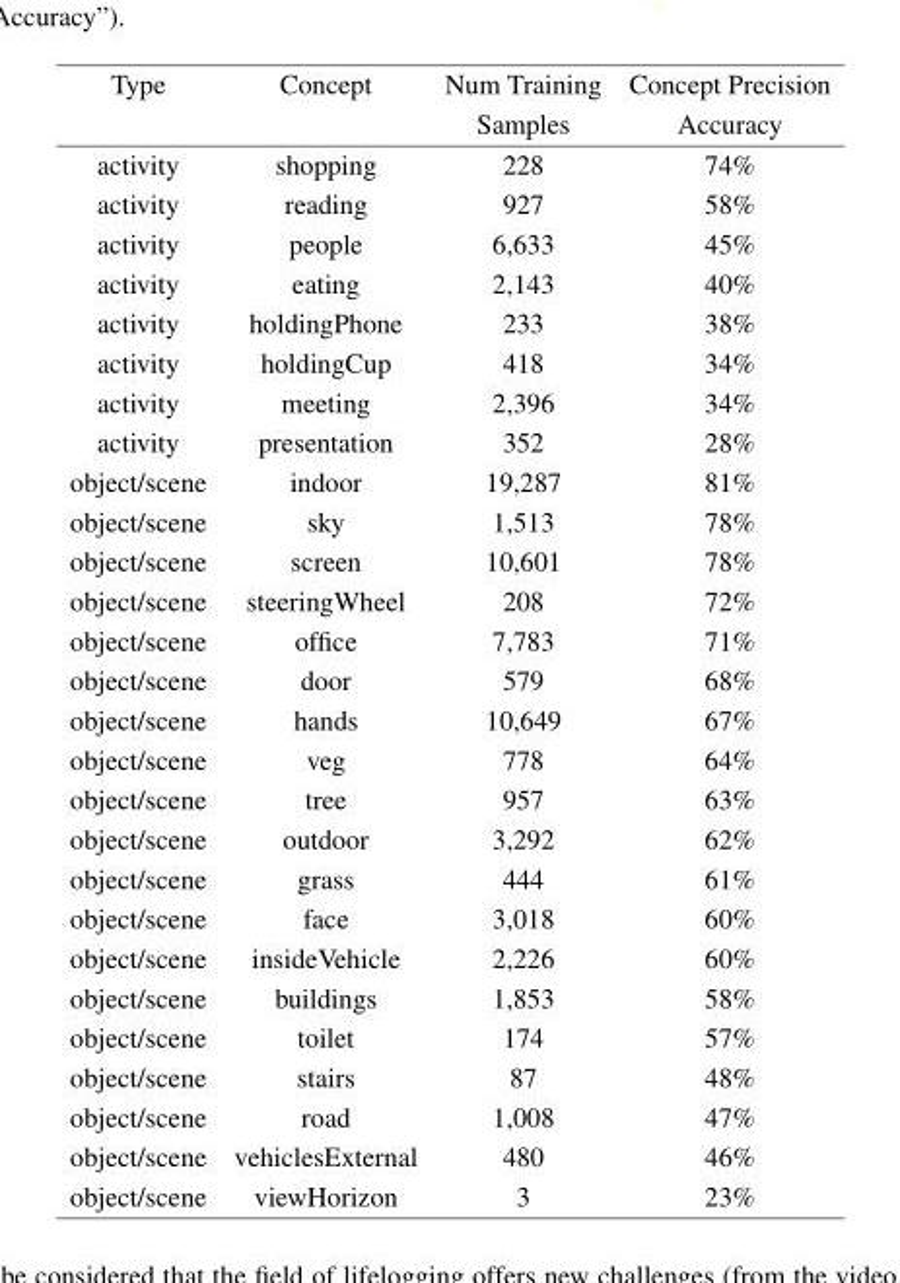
<table><thead><tr><td>Type</td><td>Concept</td><td>Num Training Samples</td><td>Concept Precision Accuracy</td></tr></thead><tbody><tr><td>activity</td><td>shopping</td><td>228</td><td>74%</td></tr><tr><td>activity</td><td>reading</td><td>927</td><td>58%</td></tr><tr><td>activity</td><td>people</td><td>6,633</td><td>45%</td></tr><tr><td>activity</td><td>eating</td><td>2,143</td><td>40%</td></tr><tr><td>activity</td><td>holdingPhone</td><td>233</td><td>38%</td></tr><tr><td>activity</td><td>holdingCup</td><td>418</td><td>34%</td></tr><tr><td>activity</td><td>meeting</td><td>2,396</td><td>34%</td></tr><tr><td>activity</td><td>presentation</td><td>352</td><td>28%</td></tr><tr><td>object/scene</td><td>indoor</td><td>19,287</td><td>81%</td></tr><tr><td>object/scene</td><td>sky</td><td>1,513</td><td>78%</td></tr><tr><td>object/scene</td><td>screen</td><td>10,601</td><td>78%</td></tr><tr><td>object/scene</td><td>steeringWheel</td><td>208</td><td>72%</td></tr><tr><td>object/scene</td><td>office</td><td>7,783</td><td>71%</td></tr><tr><td>object/scene</td><td>door</td><td>579</td><td>68%</td></tr><tr><td>object/scene</td><td>hands</td><td>10,649</td><td>67%</td></tr><tr><td>object/scene</td><td>veg</td><td>778</td><td>64%</td></tr><tr><td>object/scene</td><td>tree</td><td>957</td><td>63%</td></tr><tr><td>object/scene</td><td>outdoor</td><td>3,292</td><td>62%</td></tr><tr><td>object/scene</td><td>grass</td><td>444</td><td>61%</td></tr><tr><td>object/scene</td><td>face</td><td>3,018</td><td>60%</td></tr><tr><td>object/scene</td><td>insideVehicle</td><td>2,226</td><td>60%</td></tr><tr><td>object/scene</td><td>buildings</td><td>1,853</td><td>58%</td></tr><tr><td>object/scene</td><td>toilet</td><td>174</td><td>57%</td></tr><tr><td>object/scene</td><td>stairs</td><td>87</td><td>48%</td></tr><tr><td>object/scene</td><td>road</td><td>1,008</td><td>47%</td></tr><tr><td>object/scene</td><td>vehiclesExternal</td><td>480</td><td>46%</td></tr><tr><td>object/scene</td><td>viewHorizon</td><td>3</td><td>23%</td></tr></tbody></table>